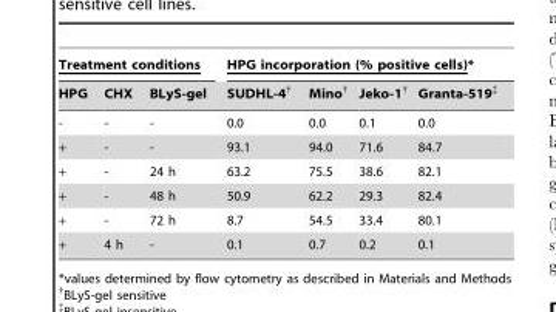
<table><thead><tr><td colspan="3">Treatment conditions</td><td colspan="4">HPG incorporation (% positive cells)*</td></tr><tr><td>HPG</td><td>CHX</td><td>BLyS-gel</td><td>SUDHL-4†</td><td>Mino†</td><td>Jeko-1†</td><td>Granta-519‡</td></tr></thead><tbody><tr><td>-</td><td>-</td><td>-</td><td>0.0</td><td>0.0</td><td>0.1</td><td>0.0</td></tr><tr><td>+</td><td>-</td><td>-</td><td>93.1</td><td>94.0</td><td>71.6</td><td>84.7</td></tr><tr><td>+</td><td>-</td><td>24 h</td><td>63.2</td><td>75.5</td><td>38.6</td><td>82.1</td></tr><tr><td>+</td><td>-</td><td>48 h</td><td>50.9</td><td>62.2</td><td>29.3</td><td>82.4</td></tr><tr><td>+</td><td>-</td><td>72 h</td><td>8.7</td><td>54.5</td><td>33.4</td><td>80.1</td></tr><tr><td>+</td><td>4 h</td><td>-</td><td>0.1</td><td>0.7</td><td>0.2</td><td>0.1</td></tr></tbody></table>